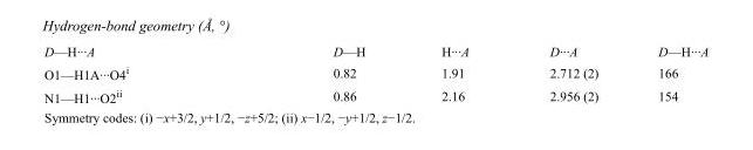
<table><tbody><tr><td>D—H···A</td><td>D—H</td><td>H···A</td><td>D···A</td><td>D—H···A</td></tr><tr><td>O1—H1A···O4<sup>i</sup></td><td>0.82</td><td>1.91</td><td>2.712 (2)</td><td>166</td></tr><tr><td>N1—H1···O2<sup>ii</sup></td><td>0.86</td><td>2.16</td><td>2.956 (2)</td><td>154</td></tr></tbody></table>